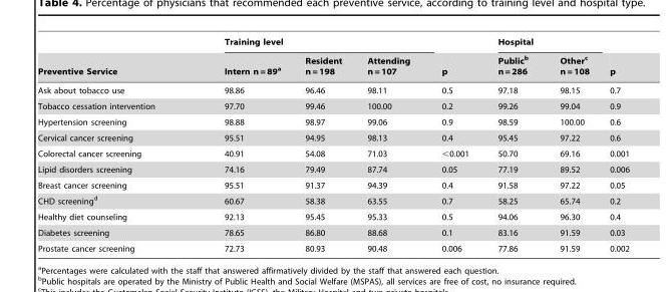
<table><thead><tr><td rowspan="2">Preventive Service</td><td colspan="3">Training level</td><td rowspan="2">p</td><td colspan="2">Hospital</td><td rowspan="2">p</td></tr><tr><td>Intern n = 89<sup>a</sup></td><td>Resident n = 198</td><td>Attending n = 107</td><td>Public<sup>b</sup> n = 286</td><td>Other<sup>c</sup> n = 108</td></tr></thead><tbody><tr><td>Ask about tobacco use</td><td>98.86</td><td>96.46</td><td>98.11</td><td>0.5</td><td>97.18</td><td>98.15</td><td>0.7</td></tr><tr><td>Tobacco cessation intervention</td><td>97.70</td><td>99.46</td><td>100.00</td><td>0.2</td><td>99.26</td><td>99.04</td><td>0.9</td></tr><tr><td>Hypertension screening</td><td>98.88</td><td>98.97</td><td>99.06</td><td>0.9</td><td>98.59</td><td>100.00</td><td>0.6</td></tr><tr><td>Cervical cancer screening</td><td>95.51</td><td>94.95</td><td>98.13</td><td>0.4</td><td>95.45</td><td>97.22</td><td>0.6</td></tr><tr><td>Colorectal cancer screening</td><td>40.91</td><td>54.08</td><td>71.03</td><td>&lt;0.001</td><td>50.70</td><td>69.16</td><td>0.001</td></tr><tr><td>Lipid disorders screening</td><td>74.16</td><td>79.49</td><td>87.74</td><td>0.05</td><td>77.19</td><td>89.52</td><td>0.006</td></tr><tr><td>Breast cancer screening</td><td>95.51</td><td>91.37</td><td>94.39</td><td>0.4</td><td>91.58</td><td>97.22</td><td>0.05</td></tr><tr><td>CHD screening<sup>d</sup></td><td>60.67</td><td>58.38</td><td>63.55</td><td>0.7</td><td>58.25</td><td>65.74</td><td>0.2</td></tr><tr><td>Healthy diet counseling</td><td>92.13</td><td>95.45</td><td>95.33</td><td>0.5</td><td>94.06</td><td>96.30</td><td>0.4</td></tr><tr><td>Diabetes screening</td><td>78.65</td><td>86.80</td><td>88.68</td><td>0.1</td><td>83.16</td><td>91.59</td><td>0.03</td></tr><tr><td>Prostate cancer screening</td><td>72.73</td><td>80.93</td><td>90.48</td><td>0.006</td><td>77.86</td><td>91.59</td><td>0.002</td></tr></tbody></table>